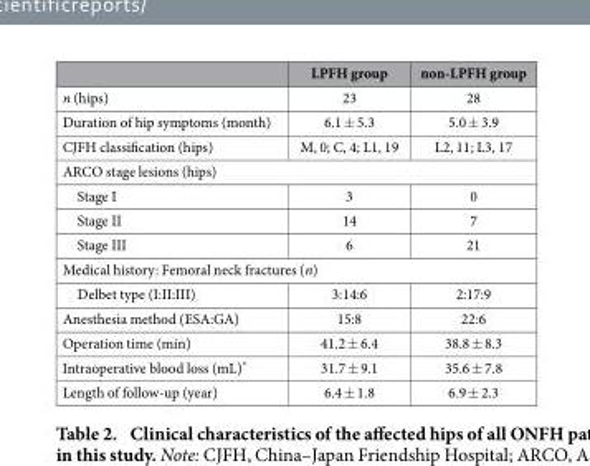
<table><thead><tr><td></td><td>LPFH group</td><td>non-LPFH group</td></tr></thead><tbody><tr><td>n (hips)</td><td>23</td><td>28</td></tr><tr><td>Duration of hip symptoms (month)</td><td>6.1 ± 5.3</td><td>5.0 ± 3.9</td></tr><tr><td>CJFH classification (hips)</td><td>M, 0; C, 4; L1, 19</td><td>L2, 11; L3, 17</td></tr><tr><td colspan="3">ARCO stage lesions (hips)</td></tr><tr><td>Stage I</td><td>3</td><td>0</td></tr><tr><td>Stage II</td><td>14</td><td>7</td></tr><tr><td>Stage III</td><td>6</td><td>21</td></tr><tr><td colspan="3">Medical history: Femoral neck fractures (n)</td></tr><tr><td>Delbet type (I:II:III)</td><td>3:14:6</td><td>2:17:9</td></tr><tr><td>Anesthesia method (ESA:GA)</td><td>15:8</td><td>22:6</td></tr><tr><td>Operation time (min)</td><td>41.2 ± 6.4</td><td>38.8 ± 8.3</td></tr><tr><td>Intraoperative blood loss (mL)*</td><td>31.7 ± 9.1</td><td>35.6 ± 7.8</td></tr><tr><td>Length of follow-up (year)</td><td>6.4 ± 1.8</td><td>6.9 ± 2.3</td></tr></tbody></table>